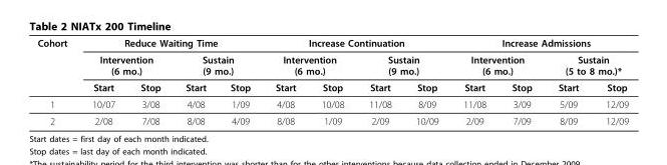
<table><thead><tr><td rowspan="3">Cohort</td><td colspan="4">Reduce Waiting Time</td><td colspan="4">Increase Continuation</td><td colspan="4">Increase Admissions</td></tr><tr><td colspan="2">Intervention (6 mo.)</td><td colspan="2">Sustain (9 mo.)</td><td colspan="2">Intervention (6 mo.)</td><td colspan="2">Sustain (9 mo.)</td><td colspan="2">Intervention (6 mo.)</td><td colspan="2">Sustain (5 to 8 mo.)*</td></tr><tr><td>Start</td><td>Stop</td><td>Start</td><td>Stop</td><td>Start</td><td>Stop</td><td>Start</td><td>Stop</td><td>Start</td><td>Stop</td><td>Start</td><td>Stop</td></tr></thead><tbody><tr><td>1</td><td>10/07</td><td>3/08</td><td>4/08</td><td>1/09</td><td>4/08</td><td>10/08</td><td>11/08</td><td>8/09</td><td>11/08</td><td>3/09</td><td>5/09</td><td>12/09</td></tr><tr><td>2</td><td>2/08</td><td>7/08</td><td>8/08</td><td>4/09</td><td>8/08</td><td>1/09</td><td>2/09</td><td>10/09</td><td>2/09</td><td>7/09</td><td>8/09</td><td>12/09</td></tr></tbody></table>